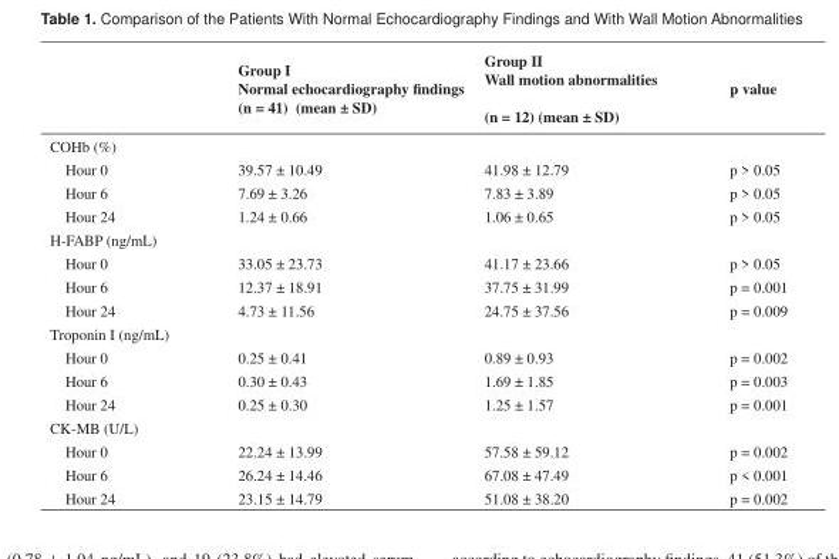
<table><thead><tr><td></td><td>Group I Normal echocardiography fi ndings (n = 41) (mean ± SD)</td><td>Group II Wall motion abnormalities (n = 12) (mean ± SD)</td><td>p value</td></tr></thead><tbody><tr><td colspan="4">COHb (%)</td></tr><tr><td>Hour 0</td><td>39.57 ± 10.49</td><td>41.98 ± 12.79</td><td>p &gt; 0.05</td></tr><tr><td>Hour 6</td><td>7.69 ± 3.26</td><td>7.83 ± 3.89</td><td>p &gt; 0.05</td></tr><tr><td>Hour 24</td><td>1.24 ± 0.66</td><td>1.06 ± 0.65</td><td>p &gt; 0.05</td></tr><tr><td colspan="4">H-FABP (ng/mL)</td></tr><tr><td>Hour 0</td><td>33.05 ± 23.73</td><td>41.17 ± 23.66</td><td>p &gt; 0.05</td></tr><tr><td>Hour 6</td><td>12.37 ± 18.91</td><td>37.75 ± 31.99</td><td>p = 0.001</td></tr><tr><td>Hour 24</td><td>4.73 ± 11.56</td><td>24.75 ± 37.56</td><td>p = 0.009</td></tr><tr><td colspan="4">Troponin I (ng/mL)</td></tr><tr><td>Hour 0</td><td>0.25 ± 0.41</td><td>0.89 ± 0.93</td><td>p = 0.002</td></tr><tr><td>Hour 6</td><td>0.30 ± 0.43</td><td>1.69 ± 1.85</td><td>p = 0.003</td></tr><tr><td>Hour 24</td><td>0.25 ± 0.30</td><td>1.25 ± 1.57</td><td>p = 0.001</td></tr><tr><td colspan="4">CK-MB (U/L)</td></tr><tr><td>Hour 0</td><td>22.24 ± 13.99</td><td>57.58 ± 59.12</td><td>p = 0.002</td></tr><tr><td>Hour 6</td><td>26.24 ± 14.46</td><td>67.08 ± 47.49</td><td>p &lt; 0.001</td></tr><tr><td>Hour 24</td><td>23.15 ± 14.79</td><td>51.08 ± 38.20</td><td>p = 0.002</td></tr></tbody></table>